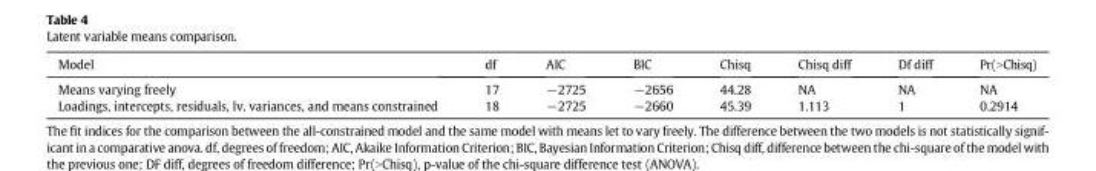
<table><thead><tr><td>Model</td><td>df</td><td>AIC</td><td>BIC</td><td>Chisq</td><td>Chisq diff</td><td>Df diff</td><td>Pr(&gt;Chisq)</td></tr></thead><tbody><tr><td>Means varying freely</td><td>17</td><td>−2725</td><td>−2656</td><td>44.28</td><td>NA</td><td>NA</td><td>NA</td></tr><tr><td>Loadings, intercepts, residuals, lv. variances, and means constrained</td><td>18</td><td>−2725</td><td>−2660</td><td>45.39</td><td>1.113</td><td>1</td><td>0.2914</td></tr></tbody></table>